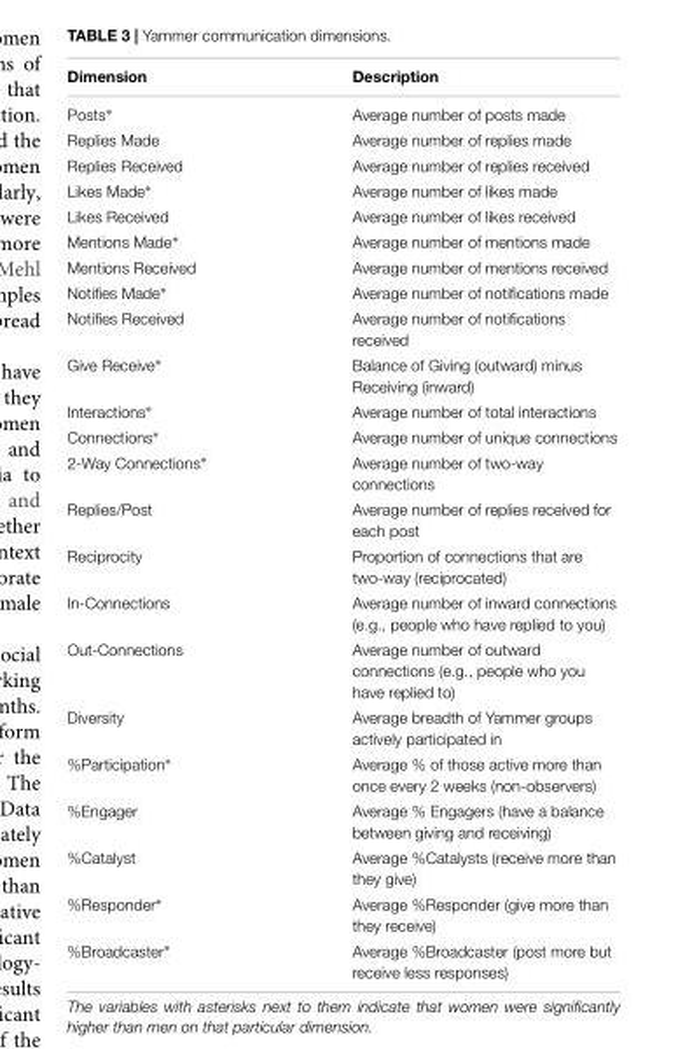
<table><thead><tr><td>Dimension</td><td>Description</td></tr></thead><tbody><tr><td>Posts∗</td><td>Average number of posts made</td></tr><tr><td>Replies Made</td><td>Average number of replies made</td></tr><tr><td>Replies Received</td><td>Average number of replies received</td></tr><tr><td>Likes Made∗</td><td>Average number of likes made</td></tr><tr><td>Likes Received</td><td>Average number of likes received</td></tr><tr><td>Mentions Made∗</td><td>Average number of mentions made</td></tr><tr><td>Mentions Received</td><td>Average number of mentions received</td></tr><tr><td>Notifies Made∗</td><td>Average number of notifications made</td></tr><tr><td>Notifies Received</td><td>Average number of notifications received</td></tr><tr><td>Give Receive∗</td><td>Balance of Giving (outward) minus Receiving (inward)</td></tr><tr><td>Interactions∗</td><td>Average number of total interactions</td></tr><tr><td>Connections∗</td><td>Average number of unique connections</td></tr><tr><td>2-Way Connections∗</td><td>Average number of two-way connections</td></tr><tr><td>Replies/Post</td><td>Average number of replies received for each post</td></tr><tr><td>Reciprocity</td><td>Proportion of connections that are two-way (reciprocated)</td></tr><tr><td>In-Connections</td><td>Average number of inward connections (e.g., people who have replied to you)</td></tr><tr><td>Out-Connections</td><td>Average number of outward connections (e.g., people who you have replied to)</td></tr><tr><td>Diversity</td><td>Average breadth of Yammer groups actively participated in</td></tr><tr><td>%Participation∗</td><td>Average % of those active more than once every 2 weeks (non-observers)</td></tr><tr><td>%Engager</td><td>Average % Engagers (have a balance between giving and receiving)</td></tr><tr><td>%Catalyst</td><td>Average %Catalysts (receive more than they give)</td></tr><tr><td>%Responder∗</td><td>Average %Responder (give more than they receive)</td></tr><tr><td>%Broadcaster∗</td><td>Average %Broadcaster (post more but receive less responses)</td></tr></tbody></table>